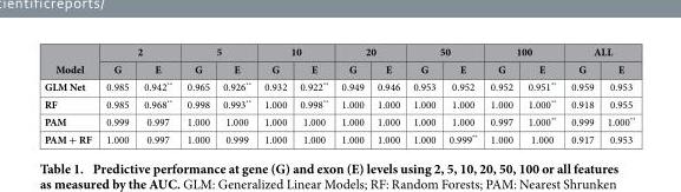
<table><thead><tr><td rowspan="2">Model</td><td colspan="2">2</td><td colspan="2">5</td><td colspan="2">10</td><td colspan="2">20</td><td colspan="2">50</td><td colspan="2">100</td><td colspan="2">ALL</td></tr><tr><td>G</td><td>E</td><td>G</td><td>E</td><td>G</td><td>E</td><td>G</td><td>E</td><td>G</td><td>E</td><td>G</td><td>E</td><td>G</td><td>E</td></tr></thead><tbody><tr><td>GLM Net</td><td>0.985</td><td>0.942**</td><td>0.965</td><td>0.926**</td><td>0.932</td><td>0.922**</td><td>0.949</td><td>0.946</td><td>0.953</td><td>0.952</td><td>0.952</td><td>0.951**</td><td>0.959</td><td>0.953</td></tr><tr><td>RF</td><td>0.985</td><td>0.968**</td><td>0.998</td><td>0.993**</td><td>1.000</td><td>0.998**</td><td>1.000</td><td>1.000</td><td>1.000</td><td>1.000</td><td>1.000</td><td>1.000**</td><td>0.918</td><td>0.955</td></tr><tr><td>PAM</td><td>0.999</td><td>0.997</td><td>1.000</td><td>1.000</td><td>1.000</td><td>1.000</td><td>1.000</td><td>1.000</td><td>1.000</td><td>1.000</td><td>0.997</td><td>1.000**</td><td>0.999</td><td>1.000**</td></tr><tr><td>PAM + RF</td><td>1.000</td><td>0.997</td><td>1.000</td><td>0.999</td><td>1.000</td><td>1.000</td><td>1.000</td><td>1.000</td><td>1.000</td><td>0.999**</td><td>1.000</td><td>1.000</td><td>0.917</td><td>0.953</td></tr></tbody></table>